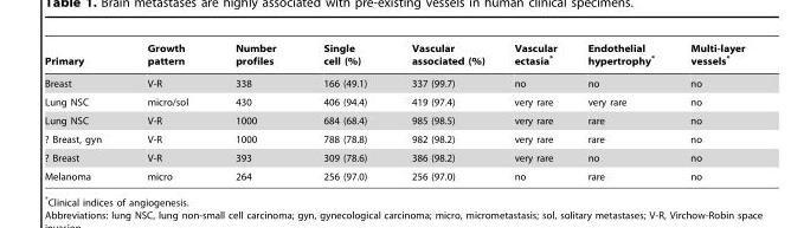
<table><thead><tr><td>Primary</td><td>Growth pattern</td><td>Number profiles</td><td>Single cell (%)</td><td>Vascular associated (%)</td><td>Vascular ectasia*</td><td>Endothelial hypertrophy*</td><td>Multi-layer vessels*</td></tr></thead><tbody><tr><td>Breast</td><td>V-R</td><td>338</td><td>166 (49.1)</td><td>337 (99.7)</td><td>no</td><td>no</td><td>no</td></tr><tr><td>Lung NSC</td><td>micro/sol</td><td>430</td><td>406 (94.4)</td><td>419 (97.4)</td><td>very rare</td><td>very rare</td><td>no</td></tr><tr><td>Lung NSC</td><td>V-R</td><td>1000</td><td>684 (68.4)</td><td>985 (98.5)</td><td>very rare</td><td>rare</td><td>no</td></tr><tr><td>? Breast, gyn</td><td>V-R</td><td>1000</td><td>788 (78.8)</td><td>982 (98.2)</td><td>very rare</td><td>rare</td><td>no</td></tr><tr><td>? Breast</td><td>V-R</td><td>393</td><td>309 (78.6)</td><td>386 (98.2)</td><td>very rare</td><td>no</td><td>no</td></tr><tr><td>Melanoma</td><td>micro</td><td>264</td><td>256 (97.0)</td><td>256 (97.0)</td><td>no</td><td>rare</td><td>no</td></tr></tbody></table>